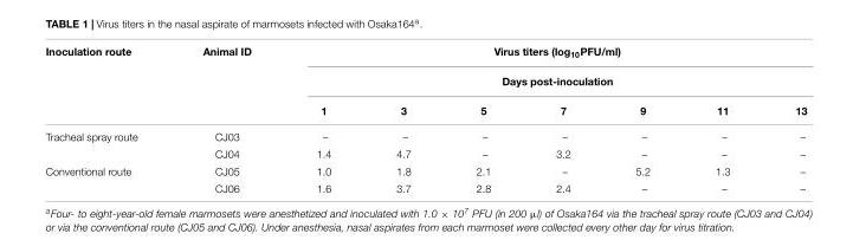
<table><thead><tr><td rowspan="3">Inoculation route</td><td rowspan="3">Animal ID</td><td rowspan="2" colspan="7">Virus titers (log<sub>10</sub>PFU/ml) Days post-inoculation</td></tr><tr></tr><tr><td>1</td><td>3</td><td>5</td><td>7</td><td>9</td><td>11</td><td>13</td></tr></thead><tbody><tr><td rowspan="2">Tracheal spray route</td><td>CJ03</td><td>–</td><td>–</td><td>–</td><td>–</td><td>–</td><td>–</td><td>–</td></tr><tr><td>CJ04</td><td>1.4</td><td>4.7</td><td>–</td><td>3.2</td><td>–</td><td>–</td><td>–</td></tr><tr><td rowspan="2">Conventional route</td><td>CJ05</td><td>1.0</td><td>1.8</td><td>2.1</td><td>–</td><td>5.2</td><td>1.3</td><td>–</td></tr><tr><td>CJ06</td><td>1.6</td><td>3.7</td><td>2.8</td><td>2.4</td><td>–</td><td>–</td><td>–</td></tr></tbody></table>